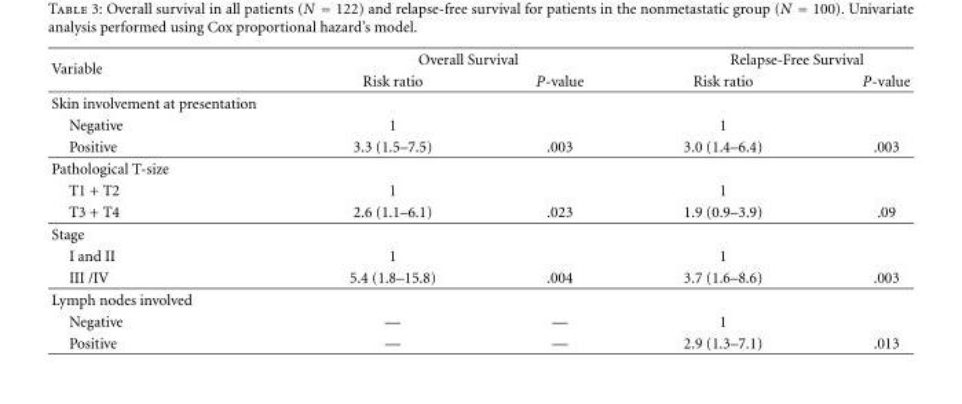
<table><thead><tr><td rowspan="2">Variable</td><td colspan="2">Overall Survival</td><td colspan="2">Relapse-Free Survival</td></tr><tr><td>Risk ratio</td><td>P-value</td><td>Risk ratio</td><td>P-value</td></tr></thead><tbody><tr><td colspan="5">Skin involvement at presentation</td></tr><tr><td>Negative</td><td>1</td><td></td><td>1</td><td></td></tr><tr><td>Positive</td><td>3.3 (1.5–7.5)</td><td>.003</td><td>3.0 (1.4–6.4)</td><td>.003</td></tr><tr><td colspan="5">Pathological T-size</td></tr><tr><td>T1 + T2</td><td>1</td><td></td><td>1</td><td></td></tr><tr><td>T3 + T4</td><td>2.6 (1.1–6.1)</td><td>.023</td><td>1.9 (0.9–3.9)</td><td>.09</td></tr><tr><td colspan="5">Stage</td></tr><tr><td>I and II</td><td>1</td><td></td><td>1</td><td></td></tr><tr><td>III /IV</td><td>5.4 (1.8–15.8)</td><td>.004</td><td>3.7 (1.6–8.6)</td><td>.003</td></tr><tr><td colspan="5">Lymph nodes involved</td></tr><tr><td>Negative</td><td>—</td><td>—</td><td>1</td><td></td></tr><tr><td>Positive</td><td>—</td><td>—</td><td>2.9 (1.3–7.1)</td><td>.013</td></tr></tbody></table>